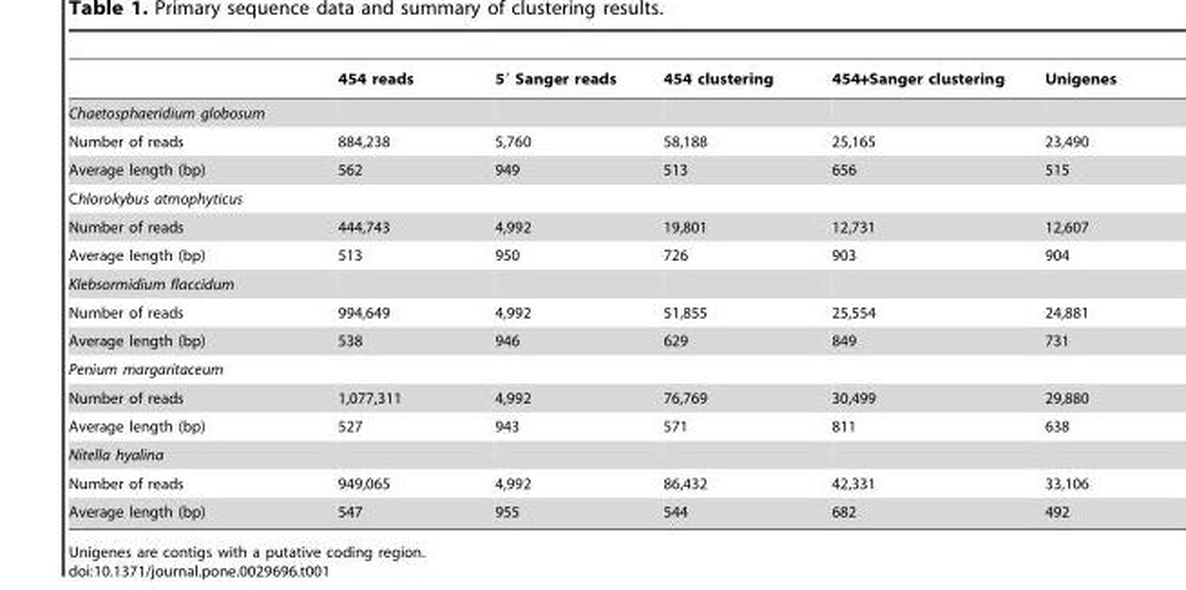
<table><thead><tr><td></td><td>454 reads</td><td>5′ Sanger reads</td><td>454 clustering</td><td>454+Sanger clustering</td><td>Unigenes</td></tr></thead><tbody><tr><td colspan="6">Chaetosphaeridium globosum</td></tr><tr><td>Number of reads</td><td>884,238</td><td>5,760</td><td>58,188</td><td>25,165</td><td>23,490</td></tr><tr><td>Average length (bp)</td><td>562</td><td>949</td><td>513</td><td>656</td><td>515</td></tr><tr><td colspan="6">Chlorokybus atmophyticus</td></tr><tr><td>Number of reads</td><td>444,743</td><td>4,992</td><td>19,801</td><td>12,731</td><td>12,607</td></tr><tr><td>Average length (bp)</td><td>513</td><td>950</td><td>726</td><td>903</td><td>904</td></tr><tr><td colspan="6">Klebsormidium flaccidum</td></tr><tr><td>Number of reads</td><td>994,649</td><td>4,992</td><td>51,855</td><td>25,554</td><td>24,881</td></tr><tr><td>Average length (bp)</td><td>538</td><td>946</td><td>629</td><td>849</td><td>731</td></tr><tr><td colspan="6">Penium margaritaceum</td></tr><tr><td>Number of reads</td><td>1,077,311</td><td>4,992</td><td>76,769</td><td>30,499</td><td>29,880</td></tr><tr><td>Average length (bp)</td><td>527</td><td>943</td><td>571</td><td>811</td><td>638</td></tr><tr><td colspan="6">Nitella hyalina</td></tr><tr><td>Number of reads</td><td>949,065</td><td>4,992</td><td>86,432</td><td>42,331</td><td>33,106</td></tr><tr><td>Average length (bp)</td><td>547</td><td>955</td><td>544</td><td>682</td><td>492</td></tr></tbody></table>